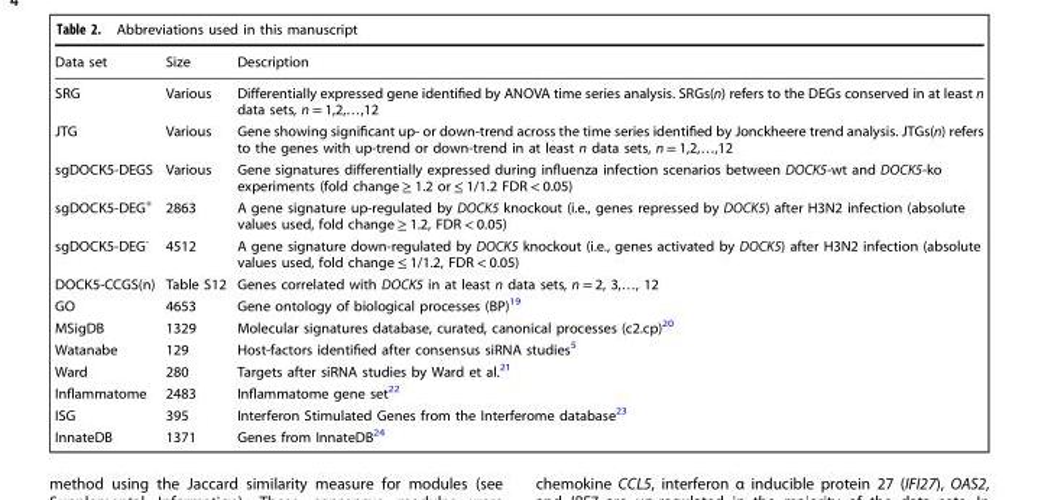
<table><thead><tr><td>Data set</td><td>Size</td><td>Description</td></tr></thead><tbody><tr><td>SRG</td><td>Various</td><td>Differentially expressed gene identified by ANOVA time series analysis. SRGs(n) refers to the DEGs conserved in at least n data sets, n = 1,2,…,12</td></tr><tr><td>JTG</td><td>Various</td><td>Gene showing significant up- or down-trend across the time series identified by Jonckheere trend analysis. JTGs(n) refers to the genes with up-trend or down-trend in at least n data sets, n = 1,2,…,12</td></tr><tr><td>sgDOCK5-DEGS</td><td>Various</td><td>Gene signatures differentially expressed during influenza infection scenarios between DOCK5-wt and DOCK5-ko experiments (fold change ≥ 1.2 or ≤ 1/1.2 FDR &lt; 0.05)</td></tr><tr><td>sgDOCK5-DEG<sup>+</sup></td><td>2863</td><td>A gene signature up-regulated by DOCK5 knockout (i.e., genes repressed by DOCK5) after H3N2 infection (absolute values used, fold change ≥ 1.2, FDR &lt; 0.05)</td></tr><tr><td>sgDOCK5-DEG<sup>-</sup></td><td>4512</td><td>A gene signature down-regulated by DOCK5 knockout (i.e., genes activated by DOCK5) after H3N2 infection (absolute values used, fold change ≤ 1/1.2, FDR &lt; 0.05)</td></tr><tr><td>DOCK5-CCGS(n)</td><td>Table S12</td><td>Genes correlated with DOCK5 in at least n data sets, n = 2, 3,…, 12</td></tr><tr><td>GO</td><td>4653</td><td>Gene ontology of biological processes (BP)<sup>19</sup></td></tr><tr><td>MSigDB</td><td>1329</td><td>Molecular signatures database, curated, canonical processes (c2.cp)<sup>20</sup></td></tr><tr><td>Watanabe</td><td>129</td><td>Host-factors identified after consensus siRNA studies<sup>5</sup></td></tr><tr><td>Ward</td><td>280</td><td>Targets after siRNA studies by Ward et al.<sup>21</sup></td></tr><tr><td>Inflammatome</td><td>2483</td><td>Inflammatome gene set<sup>22</sup></td></tr><tr><td>ISG</td><td>395</td><td>Interferon Stimulated Genes from the Interferome database<sup>23</sup></td></tr><tr><td>InnateDB</td><td>1371</td><td>Genes from InnateDB<sup>24</sup></td></tr></tbody></table>